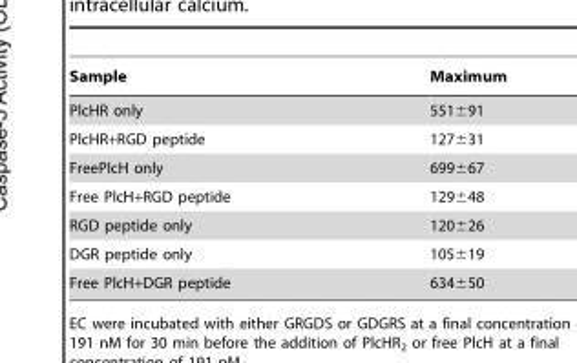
<table><thead><tr><td>Sample</td><td>Maximum</td></tr></thead><tbody><tr><td>PlcHR only</td><td>551±91</td></tr><tr><td>PlcHR+RGD peptide</td><td>127±31</td></tr><tr><td>FreePlcH only</td><td>699±67</td></tr><tr><td>Free PlcH+RGD peptide</td><td>129±48</td></tr><tr><td>RGD peptide only</td><td>120±26</td></tr><tr><td>DGR peptide only</td><td>105±19</td></tr><tr><td>Free PlcH+DGR peptide</td><td>634±50</td></tr></tbody></table>